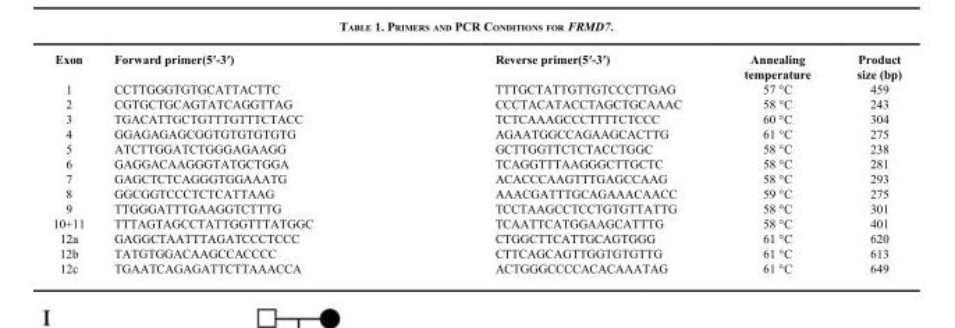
<table><thead><tr><td>Exon</td><td>Forward primer(5′-3′)</td><td>Reverse primer(5′-3′)</td><td>Annealing temperature</td><td>Product size (bp)</td></tr></thead><tbody><tr><td>1</td><td>CCTTGGGTGTGCATTACTTC</td><td>TTTGCTATTGTTGTCCCTTGAG</td><td>57 °C</td><td>459</td></tr><tr><td>2</td><td>CGTGCTGCAGTATCAGGTTAG</td><td>CCCTACATACCTAGCTGCAAAC</td><td>58 °C</td><td>243</td></tr><tr><td>3</td><td>TGACATTGCTGTTTGTTTCTACC</td><td>TCTCAAAGCCCTTTTCTCCC</td><td>60 °C</td><td>304</td></tr><tr><td>4</td><td>GGAGAGAGCGGTGTGTGTGTG</td><td>AGAATGGCCAGAAGCACTTG</td><td>61 °C</td><td>275</td></tr><tr><td>5</td><td>ATCTTGGATCTGGGAGAAGG</td><td>GCTTGGTTCTCTACCTGGC</td><td>58 °C</td><td>238</td></tr><tr><td>6</td><td>GAGGACAAGGGTATGCTGGA</td><td>TCAGGTTTAAGGGCTTGCTC</td><td>58 °C</td><td>281</td></tr><tr><td>7</td><td>GAGCTCTCAGGGTGGAAATG</td><td>ACACCCAAGTTTGAGCCAAG</td><td>58 °C</td><td>293</td></tr><tr><td>8</td><td>GGCGGTCCCTCTCATTAAG</td><td>AAACGATTTGCAGAAACAACC</td><td>59 °C</td><td>275</td></tr><tr><td>9</td><td>TTGGGATTTGAAGGTCTTTG</td><td>TCCTAAGCCTCCTGTGTTATTG</td><td>58 °C</td><td>301</td></tr><tr><td>10+11</td><td>TTTAGTAGCCTATTGGTTTATGGC</td><td>TCAATTCATGGAAGCATTTG</td><td>58 °C</td><td>401</td></tr><tr><td>12a</td><td>GAGGCTAATTTAGATCCCTCCC</td><td>CTGGCTTCATTGCAGTGGG</td><td>61 °C</td><td>620</td></tr><tr><td>12b</td><td>TATGTGGACAAGCCACCCC</td><td>CTTCAGCAGTTGGTGTGTTG</td><td>61 °C</td><td>613</td></tr><tr><td>12c</td><td>TGAATCAGAGATTCTTAAACCA</td><td>ACTGGGCCCCACACAAATAG</td><td>61 °C</td><td>649</td></tr></tbody></table>